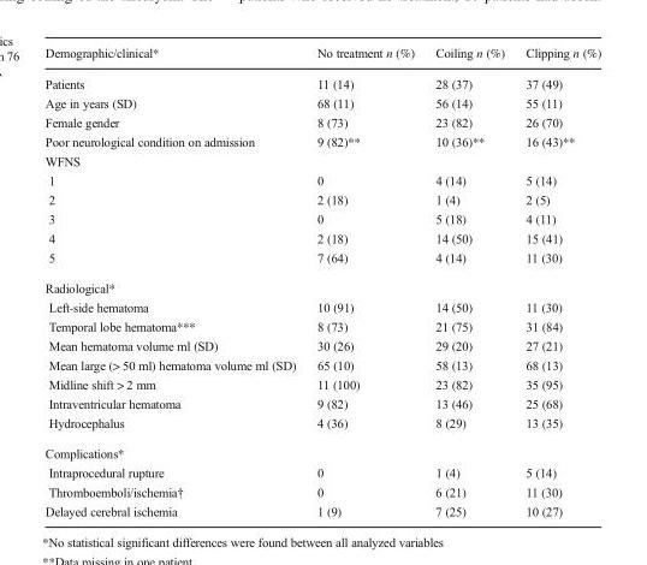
<table><thead><tr><td>Demographic/clinical*</td><td>No treatment n (%)</td><td>Coiling n (%)</td><td>Clipping n (%)</td></tr></thead><tbody><tr><td>Patients</td><td>11 (14)</td><td>28 (37)</td><td>37 (49)</td></tr><tr><td>Age in years (SD)</td><td>68 (11)</td><td>56 (14)</td><td>55 (11)</td></tr><tr><td>Female gender</td><td>8 (73)</td><td>23 (82)</td><td>26 (70)</td></tr><tr><td>Poor neurological condition on admission</td><td>9 (82)**</td><td>10 (36)**</td><td>16 (43)**</td></tr><tr><td colspan="4">WFNS</td></tr><tr><td>1</td><td>0</td><td>4 (14)</td><td>5 (14)</td></tr><tr><td>2</td><td>2 (18)</td><td>1 (4)</td><td>2 (5)</td></tr><tr><td>3</td><td>0</td><td>5 (18)</td><td>4 (11)</td></tr><tr><td>4</td><td>2 (18)</td><td>14 (50)</td><td>15 (41)</td></tr><tr><td>5</td><td>7 (64)</td><td>4 (14)</td><td>11 (30)</td></tr><tr><td colspan="4">Radiological*</td></tr><tr><td>Left-side hematoma</td><td>10 (91)</td><td>14 (50)</td><td>11 (30)</td></tr><tr><td>Temporal lobe hematoma***</td><td>8 (73)</td><td>21 (75)</td><td>31 (84)</td></tr><tr><td>Mean hematoma volume ml (SD)</td><td>30 (26)</td><td>29 (20)</td><td>27 (21)</td></tr><tr><td>Mean large (&gt; 50 ml) hematoma volume ml (SD)</td><td>65 (10)</td><td>58 (13)</td><td>68 (13)</td></tr><tr><td>Midline shift &gt; 2 mm</td><td>11 (100)</td><td>23 (82)</td><td>35 (95)</td></tr><tr><td>Intraventricular hematoma</td><td>9 (82)</td><td>13 (46)</td><td>25 (68)</td></tr><tr><td>Hydrocephalus</td><td>4 (36)</td><td>8 (29)</td><td>13 (35)</td></tr><tr><td colspan="4">Complications*</td></tr><tr><td>Intraprocedural rupture</td><td>0</td><td>1 (4)</td><td>5 (14)</td></tr><tr><td>Thromboemboli/ischemia†</td><td>0</td><td>6 (21)</td><td>11 (30)</td></tr><tr><td>Delayed cerebral ischemia</td><td>1 (9)</td><td>7 (25)</td><td>10 (27)</td></tr></tbody></table>